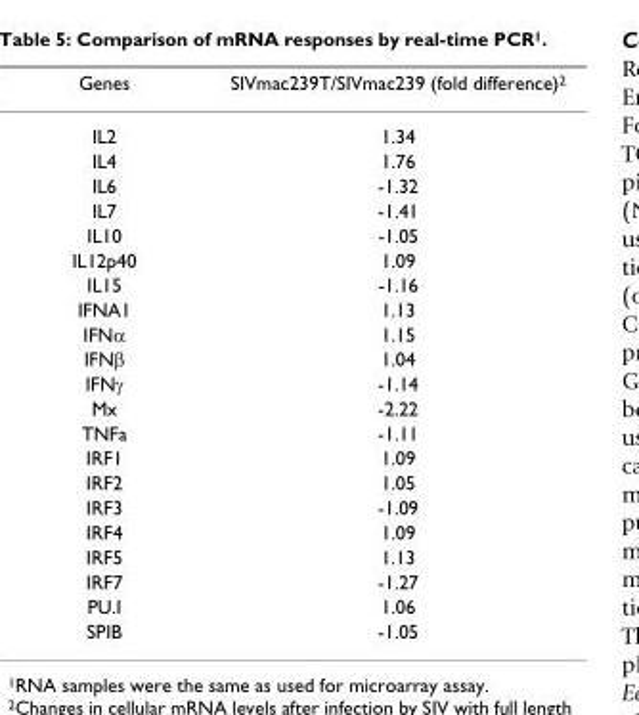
<table><thead><tr><td>Genes</td><td>SIVmac239T/SIVmac239 (fold difference)<sup>2</sup></td></tr></thead><tbody><tr><td>IL2</td><td>1.34</td></tr><tr><td>IL4</td><td>1.76</td></tr><tr><td>IL6</td><td>-1.32</td></tr><tr><td>IL7</td><td>-1.41</td></tr><tr><td>IL10</td><td>-1.05</td></tr><tr><td>IL12p40</td><td>1.09</td></tr><tr><td>IL15</td><td>-1.16</td></tr><tr><td>IFNA1</td><td>1.13</td></tr><tr><td>IFNα</td><td>1.15</td></tr><tr><td>IFNβ</td><td>1.04</td></tr><tr><td>IFNγ</td><td>-1.14</td></tr><tr><td>Mx</td><td>-2.22</td></tr><tr><td>TNFa</td><td>-1.11</td></tr><tr><td>IRF1</td><td>1.09</td></tr><tr><td>IRF2</td><td>1.05</td></tr><tr><td>IRF3</td><td>-1.09</td></tr><tr><td>IRF4</td><td>1.09</td></tr><tr><td>IRF5</td><td>1.13</td></tr><tr><td>IRF7</td><td>-1.27</td></tr><tr><td>PU.I</td><td>1.06</td></tr><tr><td>SPIB</td><td>-1.05</td></tr></tbody></table>